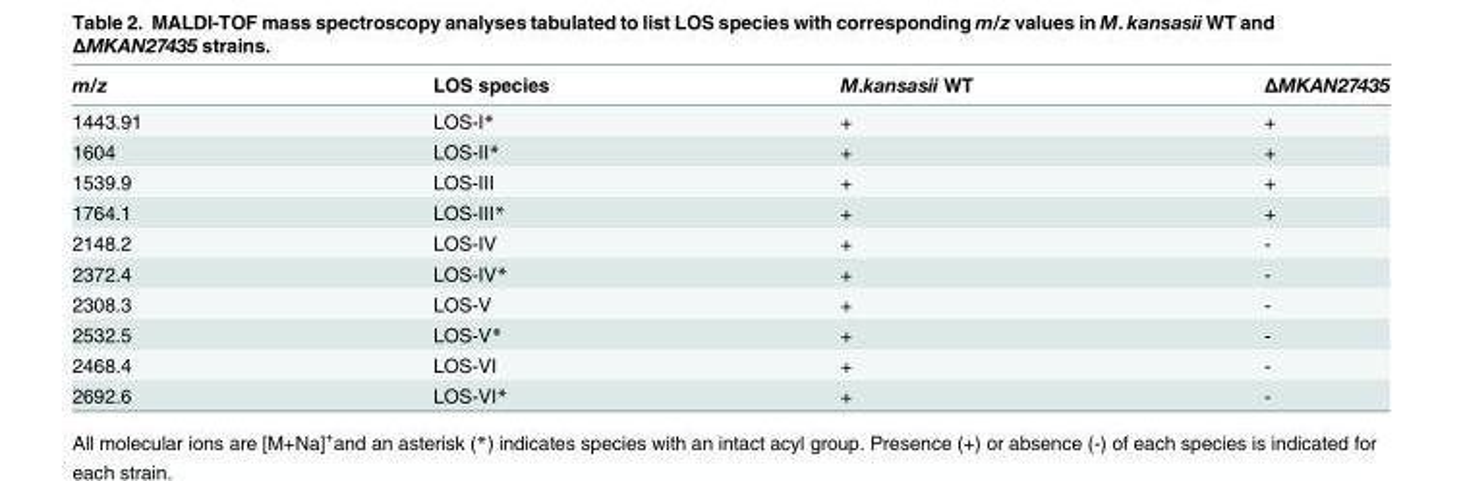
<table><thead><tr><td>m/z</td><td>LOS species</td><td>M.kansasii WT</td><td>ΔMKAN27435</td></tr></thead><tbody><tr><td>1443.91</td><td>LOS-I*</td><td>+</td><td>+</td></tr><tr><td>1604</td><td>LOS-II*</td><td>+</td><td>+</td></tr><tr><td>1539.9</td><td>LOS-III</td><td>+</td><td>+</td></tr><tr><td>1764.1</td><td>LOS-III*</td><td>+</td><td>+</td></tr><tr><td>2148.2</td><td>LOS-IV</td><td>+</td><td>-</td></tr><tr><td>2372.4</td><td>LOS-IV*</td><td>+</td><td>-</td></tr><tr><td>2308.3</td><td>LOS-V</td><td>+</td><td>-</td></tr><tr><td>2532.5</td><td>LOS-V*</td><td>+</td><td>-</td></tr><tr><td>2468.4</td><td>LOS-VI</td><td>+</td><td>-</td></tr><tr><td>2692.6</td><td>LOS-VI*</td><td>+</td><td>-</td></tr></tbody></table>